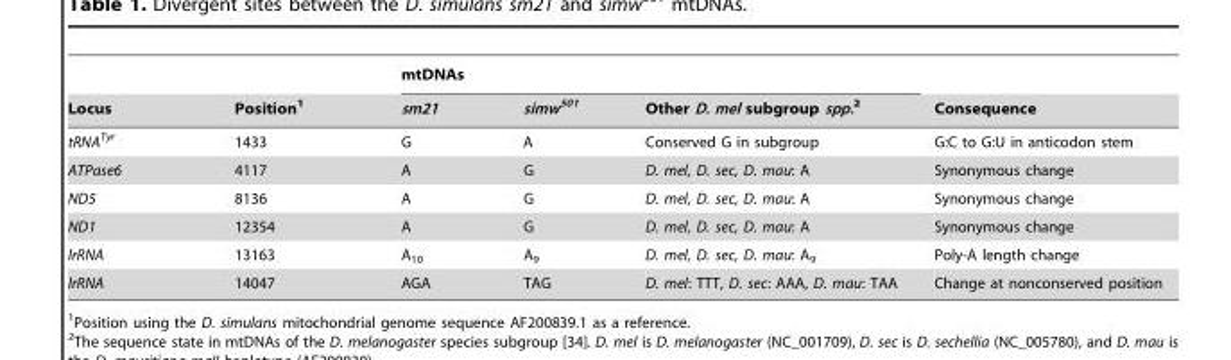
<table><thead><tr><td rowspan="2">Locus</td><td rowspan="2">Position<sup>1</sup></td><td colspan="3">mtDNAs</td><td rowspan="2">Consequence</td></tr><tr><td>sm21</td><td>simw<sup>501</sup></td><td>Other D. mel subgroup spp.2</td></tr></thead><tbody><tr><td>tRNA<sup>Tyr</sup></td><td>1433</td><td>G</td><td>A</td><td>Conserved G in subgroup</td><td>G:C to G:U in anticodon stem</td></tr><tr><td>ATPase6</td><td>4117</td><td>A</td><td>G</td><td>D. mel, D. sec, D. mau: A</td><td>Synonymous change</td></tr><tr><td>ND5</td><td>8136</td><td>A</td><td>G</td><td>D. mel, D. sec, D. mau: A</td><td>Synonymous change</td></tr><tr><td>ND1</td><td>12354</td><td>A</td><td>G</td><td>D. mel, D. sec, D. mau: A</td><td>Synonymous change</td></tr><tr><td>lrRNA</td><td>13163</td><td>A<sub>10</sub></td><td>A<sub>9</sub></td><td>D. mel, D. sec, D. mau: A<sub>9</sub></td><td>Poly-A length change</td></tr><tr><td>lrRNA</td><td>14047</td><td>AGA</td><td>TAG</td><td>D. mel: TTT, D. sec: AAA, D. mau: TAA</td><td>Change at nonconserved position</td></tr></tbody></table>